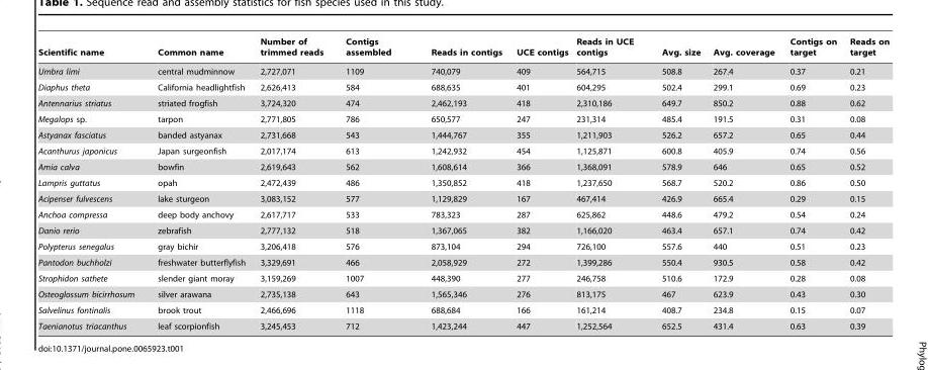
<table><thead><tr><td>Scientific name</td><td>Common name</td><td>Number of trimmed reads</td><td>Contigs assembled</td><td>Reads in contigs</td><td>UCE contigs</td><td>Reads in UCE contigs</td><td>Avg. size</td><td>Avg. coverage</td><td>Contigs on target</td><td>Reads on target</td></tr></thead><tbody><tr><td>Umbra limi</td><td>central mudminnow</td><td>2,727,071</td><td>1109</td><td>740,079</td><td>409</td><td>564,715</td><td>508.8</td><td>267.4</td><td>0.37</td><td>0.21</td></tr><tr><td>Diaphus theta</td><td>California headlightfish</td><td>2,626,413</td><td>584</td><td>688,635</td><td>401</td><td>604,295</td><td>502.4</td><td>299.1</td><td>0.69</td><td>0.23</td></tr><tr><td>Antennarius striatus</td><td>striated frogfish</td><td>3,724,320</td><td>474</td><td>2,462,193</td><td>418</td><td>2,310,186</td><td>649.7</td><td>850.2</td><td>0.88</td><td>0.62</td></tr><tr><td>Megalops sp.</td><td>tarpon</td><td>2,771,805</td><td>786</td><td>650,577</td><td>247</td><td>231,314</td><td>485.4</td><td>191.5</td><td>0.31</td><td>0.08</td></tr><tr><td>Astyanax fasciatus</td><td>banded astyanax</td><td>2,731,668</td><td>543</td><td>1,444,767</td><td>355</td><td>1,211,903</td><td>526.2</td><td>657.2</td><td>0.65</td><td>0.44</td></tr><tr><td>Acanthurus japonicus</td><td>Japan surgeonfish</td><td>2,017,174</td><td>613</td><td>1,242,932</td><td>454</td><td>1,125,871</td><td>600.8</td><td>405.9</td><td>0.74</td><td>0.56</td></tr><tr><td>Amia calva</td><td>bowfin</td><td>2,619,643</td><td>562</td><td>1,608,614</td><td>366</td><td>1,368,091</td><td>578.9</td><td>646</td><td>0.65</td><td>0.52</td></tr><tr><td>Lampris guttatus</td><td>opah</td><td>2,472,439</td><td>486</td><td>1,350,852</td><td>418</td><td>1,237,650</td><td>568.7</td><td>520.2</td><td>0.86</td><td>0.50</td></tr><tr><td>Acipenser fulvescens</td><td>lake sturgeon</td><td>3,083,152</td><td>577</td><td>1,129,829</td><td>167</td><td>467,414</td><td>426.9</td><td>665.4</td><td>0.29</td><td>0.15</td></tr><tr><td>Anchoa compressa</td><td>deep body anchovy</td><td>2,617,717</td><td>533</td><td>783,323</td><td>287</td><td>625,862</td><td>448.6</td><td>479.2</td><td>0.54</td><td>0.24</td></tr><tr><td>Danio rerio</td><td>zebrafish</td><td>2,777,132</td><td>518</td><td>1,367,065</td><td>382</td><td>1,166,020</td><td>463.4</td><td>657.1</td><td>0.74</td><td>0.42</td></tr><tr><td>Polypterus senegalus</td><td>gray bichir</td><td>3,206,418</td><td>576</td><td>873,104</td><td>294</td><td>726,100</td><td>557.6</td><td>440</td><td>0.51</td><td>0.23</td></tr><tr><td>Pantodon buchholzi</td><td>freshwater butterflyfish</td><td>3,329,691</td><td>466</td><td>2,058,929</td><td>272</td><td>1,399,286</td><td>550.4</td><td>930.5</td><td>0.58</td><td>0.42</td></tr><tr><td>Strophidon sathete</td><td>slender giant moray</td><td>3,159,269</td><td>1007</td><td>448,390</td><td>277</td><td>246,758</td><td>510.6</td><td>172.9</td><td>0.28</td><td>0.08</td></tr><tr><td>Osteoglossum bicirrhosum</td><td>silver arawana</td><td>2,735,138</td><td>643</td><td>1,565,346</td><td>276</td><td>813,175</td><td>467</td><td>623.9</td><td>0.43</td><td>0.30</td></tr><tr><td>Salvelinus fontinalis</td><td>brook trout</td><td>2,466,696</td><td>1118</td><td>688,684</td><td>166</td><td>161,214</td><td>408.7</td><td>234.8</td><td>0.15</td><td>0.07</td></tr><tr><td>Taenianotus triacanthus</td><td>leaf scorpionfish</td><td>3,245,453</td><td>712</td><td>1,423,244</td><td>447</td><td>1,252,564</td><td>652.5</td><td>431.4</td><td>0.63</td><td>0.39</td></tr></tbody></table>